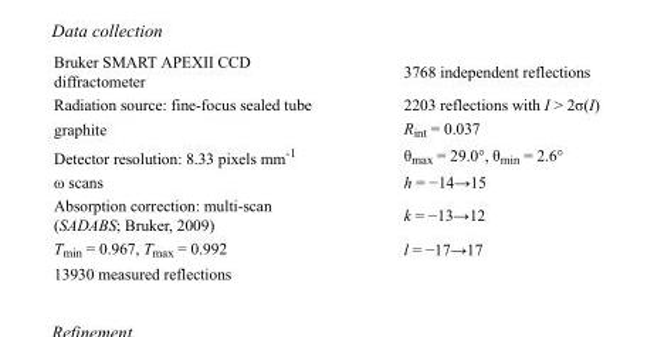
<table><tbody><tr><td>Bruker SMART APEXII CCD diffractometer</td><td>3768 independent reflections</td></tr><tr><td>Radiation source: fine-focus sealed tube</td><td>2203 reflections with I &gt; 2σ(I)</td></tr><tr><td>graphite</td><td>R<sub>int</sub> = 0.037</td></tr><tr><td>Detector resolution: 8.33 pixels mm<sup>-1</sup></td><td>θ<sub>max</sub> = 29.0°, θ<sub>min</sub> = 2.6°</td></tr><tr><td>ω scans</td><td>h = −14→15</td></tr><tr><td>Absorption correction: multi-scan (SADABS; Bruker, 2009)</td><td>k = −13→12</td></tr><tr><td>T<sub>min</sub> = 0.967, T<sub>max</sub> = 0.992</td><td>l = −17→17</td></tr><tr><td>13930 measured reflections</td><td></td></tr></tbody></table>